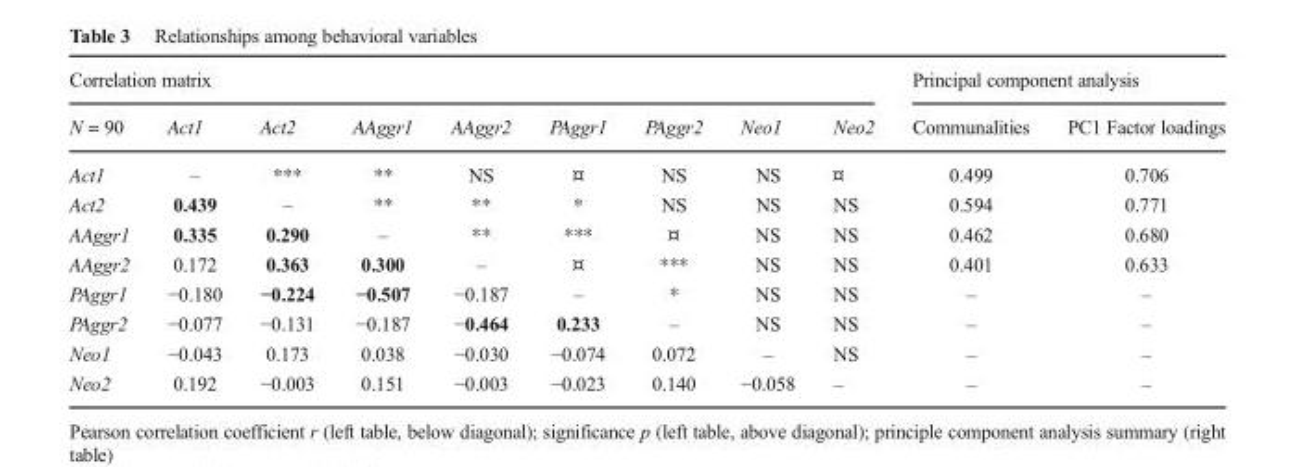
<table><thead><tr><td colspan="9">Correlation matrix</td><td colspan="2">Principal component analysis</td></tr><tr><td>N = 90</td><td>Act1</td><td>Act2</td><td>AAggr1</td><td>AAggr2</td><td>PAggr1</td><td>PAggr2</td><td>Neo1</td><td>Neo2</td><td>Communalities</td><td>PC1 Factor loadings</td></tr></thead><tbody><tr><td>Act1</td><td>–</td><td>***</td><td>**</td><td>NS</td><td>¤</td><td>NS</td><td>NS</td><td>¤</td><td>0.499</td><td>0.706</td></tr><tr><td>Act2</td><td>0.439</td><td>–</td><td>**</td><td>**</td><td>*</td><td>NS</td><td>NS</td><td>NS</td><td>0.594</td><td>0.771</td></tr><tr><td>AAggr1</td><td>0.335</td><td>0.290</td><td>–</td><td>**</td><td>***</td><td>¤</td><td>NS</td><td>NS</td><td>0.462</td><td>0.680</td></tr><tr><td>AAggr2</td><td>0.172</td><td>0.363</td><td>0.300</td><td>–</td><td>¤</td><td>***</td><td>NS</td><td>NS</td><td>0.401</td><td>0.633</td></tr><tr><td>PAggr1</td><td>−0.180</td><td>−0.224</td><td>−0.507</td><td>−0.187</td><td>–</td><td>*</td><td>NS</td><td>NS</td><td>–</td><td>–</td></tr><tr><td>PAggr2</td><td>−0.077</td><td>−0.131</td><td>−0.187</td><td>−0.464</td><td>0.233</td><td>–</td><td>NS</td><td>NS</td><td>–</td><td>–</td></tr><tr><td>Neo1</td><td>−0.043</td><td>0.173</td><td>0.038</td><td>−0.030</td><td>−0.074</td><td>0.072</td><td>–</td><td>NS</td><td>–</td><td>–</td></tr><tr><td>Neo2</td><td>0.192</td><td>−0.003</td><td>0.151</td><td>−0.003</td><td>−0.023</td><td>0.140</td><td>−0.058</td><td>–</td><td>–</td><td>–</td></tr></tbody></table>